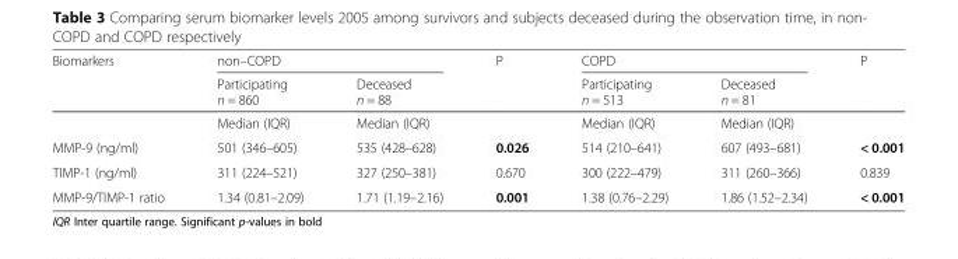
<table><thead><tr><td rowspan="2">Biomarkers</td><td colspan="2">non–COPD</td><td rowspan="2">P</td><td colspan="2">COPD</td><td rowspan="2">P</td></tr><tr><td>Participating n = 860</td><td>Deceased n = 88</td><td>Participating n = 513</td><td>Deceased n = 81</td></tr></thead><tbody><tr><td></td><td>Median (IQR)</td><td>Median (IQR)</td><td></td><td>Median (IQR)</td><td>Median (IQR)</td><td></td></tr><tr><td>MMP-9 (ng/ml)</td><td>501 (346–605)</td><td>535 (428–628)</td><td>0.026</td><td>514 (210–641)</td><td>607 (493–681)</td><td>&lt; 0.001</td></tr><tr><td>TIMP-1 (ng/ml)</td><td>311 (224–521)</td><td>327 (250–381)</td><td>0.670</td><td>300 (222–479)</td><td>311 (260–366)</td><td>0.839</td></tr><tr><td>MMP-9/TIMP-1 ratio</td><td>1.34 (0.81–2.09)</td><td>1.71 (1.19–2.16)</td><td>0.001</td><td>1.38 (0.76–2.29)</td><td>1.86 (1.52–2.34)</td><td>&lt; 0.001</td></tr></tbody></table>